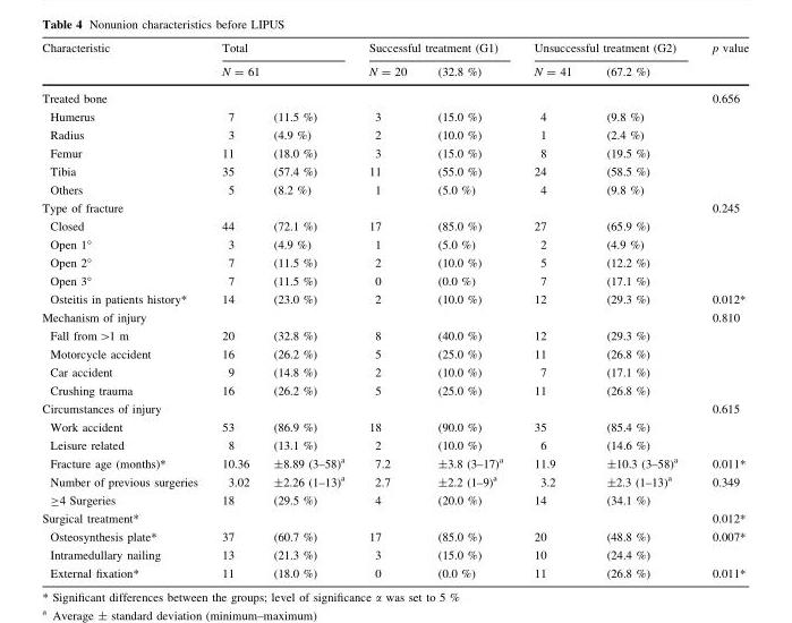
<table><thead><tr><td rowspan="3">Characteristic Treated bone</td><td rowspan="2" colspan="2">Total N = 61</td><td colspan="2">Successful treatment (G1)</td><td colspan="2">Unsuccessful treatment (G2)</td><td rowspan="3">p value 0.656</td></tr><tr><td rowspan="2">N = 20</td><td rowspan="2">(32.8 %)</td><td rowspan="2">N = 41</td><td rowspan="2">(67.2 %)</td></tr><tr><td></td><td></td></tr></thead><tbody><tr><td>Humerus</td><td>7</td><td>(11.5 %)</td><td>3</td><td>(15.0 %)</td><td>4</td><td>(9.8 %)</td><td></td></tr><tr><td>Radius</td><td>3</td><td>(4.9 %)</td><td>2</td><td>(10.0 %)</td><td>1</td><td>(2.4 %)</td><td></td></tr><tr><td>Femur</td><td>11</td><td>(18.0 %)</td><td>3</td><td>(15.0 %)</td><td>8</td><td>(19.5 %)</td><td></td></tr><tr><td>Tibia</td><td>35</td><td>(57.4 %)</td><td>11</td><td>(55.0 %)</td><td>24</td><td>(58.5 %)</td><td></td></tr><tr><td>Others</td><td>5</td><td>(8.2 %)</td><td>1</td><td>(5.0 %)</td><td>4</td><td>(9.8 %)</td><td></td></tr><tr><td>Type of fracture</td><td></td><td></td><td></td><td></td><td></td><td></td><td>0.245</td></tr><tr><td>Closed</td><td>44</td><td>(72.1 %)</td><td>17</td><td>(85.0 %)</td><td>27</td><td>(65.9 %)</td><td></td></tr><tr><td>Open 1°</td><td>3</td><td>(4.9 %)</td><td>1</td><td>(5.0 %)</td><td>2</td><td>(4.9 %)</td><td></td></tr><tr><td>Open 2°</td><td>7</td><td>(11.5 %)</td><td>2</td><td>(10.0 %)</td><td>5</td><td>(12.2 %)</td><td></td></tr><tr><td>Open 3°</td><td>7</td><td>(11.5 %)</td><td>0</td><td>(0.0 %)</td><td>7</td><td>(17.1 %)</td><td></td></tr><tr><td>Osteitis in patients history*</td><td>14</td><td>(23.0 %)</td><td>2</td><td>(10.0 %)</td><td>12</td><td>(29.3 %)</td><td>0.012*</td></tr><tr><td>Mechanism of injury</td><td></td><td></td><td></td><td></td><td></td><td></td><td>0.810</td></tr><tr><td>Fall from &gt;1 m</td><td>20</td><td>(32.8 %)</td><td>8</td><td>(40.0 %)</td><td>12</td><td>(29.3 %)</td><td></td></tr><tr><td>Motorcycle accident</td><td>16</td><td>(26.2 %)</td><td>5</td><td>(25.0 %)</td><td>11</td><td>(26.8 %)</td><td></td></tr><tr><td>Car accident</td><td>9</td><td>(14.8 %)</td><td>2</td><td>(10.0 %)</td><td>7</td><td>(17.1 %)</td><td></td></tr><tr><td>Crushing trauma</td><td>16</td><td>(26.2 %)</td><td>5</td><td>(25.0 %)</td><td>11</td><td>(26.8 %)</td><td></td></tr><tr><td>Circumstances of injury</td><td></td><td></td><td></td><td></td><td></td><td></td><td>0.615</td></tr><tr><td>Work accident</td><td>53</td><td>(86.9 %)</td><td>18</td><td>(90.0 %)</td><td>35</td><td>(85.4 %)</td><td></td></tr><tr><td>Leisure related</td><td>8</td><td>(13.1 %)</td><td>2</td><td>(10.0 %)</td><td>6</td><td>(14.6 %)</td><td></td></tr><tr><td>Fracture age (months)*</td><td>10.36</td><td>±8.89 (3–58)<sup>a</sup></td><td>7.2</td><td>±3.8 (3–17)<sup>a</sup></td><td>11.9</td><td>±10.3 (3–58)<sup>a</sup></td><td>0.011*</td></tr><tr><td>Number of previous surgeries</td><td>3.02</td><td>±2.26 (1–13)<sup>a</sup></td><td>2.7</td><td>±2.2 (1–9)<sup>a</sup></td><td>3.2</td><td>±2.3 (1–13)<sup>a</sup></td><td>0.349</td></tr><tr><td>≥4 Surgeries</td><td>18</td><td>(29.5 %)</td><td>4</td><td>(20.0 %)</td><td>14</td><td>(34.1 %)</td><td></td></tr><tr><td>Surgical treatment*</td><td></td><td></td><td></td><td></td><td></td><td></td><td>0.012*</td></tr><tr><td>Osteosynthesis plate*</td><td>37</td><td>(60.7 %)</td><td>17</td><td>(85.0 %)</td><td>20</td><td>(48.8 %)</td><td>0.007*</td></tr><tr><td>Intramedullary nailing</td><td>13</td><td>(21.3 %)</td><td>3</td><td>(15.0 %)</td><td>10</td><td>(24.4 %)</td><td></td></tr><tr><td>External fixation*</td><td>11</td><td>(18.0 %)</td><td>0</td><td>(0.0 %)</td><td>11</td><td>(26.8 %)</td><td>0.011*</td></tr></tbody></table>